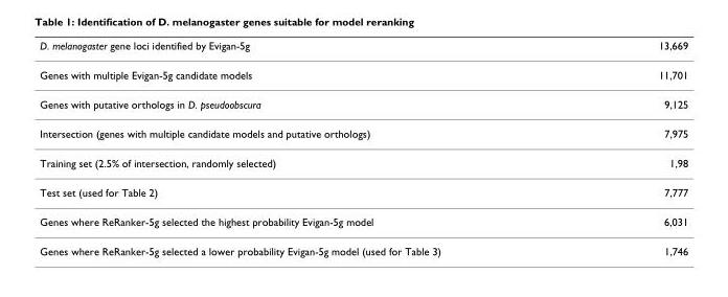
<table><thead><tr><td>D. melanogaster gene loci identified by Evigan-5g</td><td>13,669</td></tr></thead><tbody><tr><td>Genes with multiple Evigan-5g candidate models</td><td>11,701</td></tr><tr><td>Genes with putative orthologs in D. pseudoobscura</td><td>9,125</td></tr><tr><td>Intersection (genes with multiple candidate models and putative orthologs)</td><td>7,975</td></tr><tr><td>Training set (2.5% of intersection, randomly selected)</td><td>1,98</td></tr><tr><td>Test set (used for Table 2)</td><td>7,777</td></tr><tr><td>Genes where ReRanker-5g selected the highest probability Evigan-5g model</td><td>6,031</td></tr><tr><td>Genes where ReRanker-5g selected a lower probability Evigan-5g model (used for Table 3)</td><td>1,746</td></tr></tbody></table>